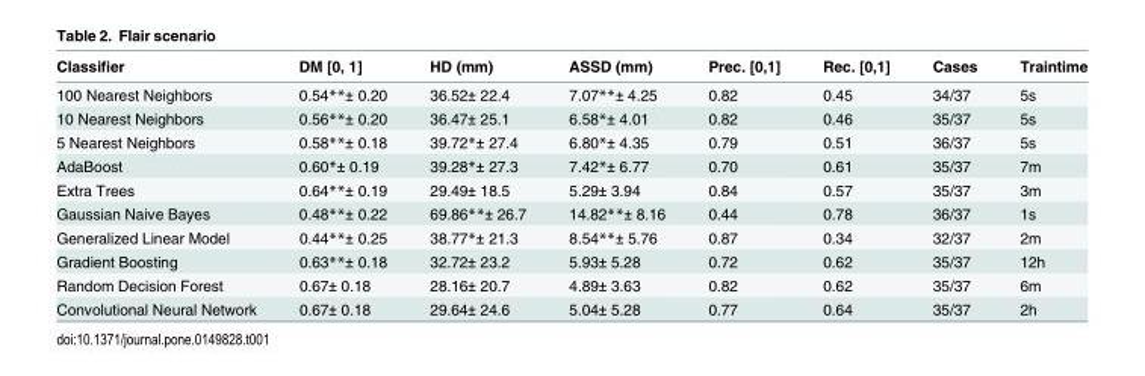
<table><thead><tr><td>Classifier</td><td>DM [0, 1]</td><td>HD (mm)</td><td>ASSD (mm)</td><td>Prec. [0,1]</td><td>Rec. [0,1]</td><td>Cases</td><td>Traintime</td></tr></thead><tbody><tr><td>100 Nearest Neighbors</td><td>0.54**± 0.20</td><td>36.52± 22.4</td><td>7.07**± 4.25</td><td>0.82</td><td>0.45</td><td>34/37</td><td>5s</td></tr><tr><td>10 Nearest Neighbors</td><td>0.56**± 0.20</td><td>36.47± 25.1</td><td>6.58*± 4.01</td><td>0.82</td><td>0.46</td><td>35/37</td><td>5s</td></tr><tr><td>5 Nearest Neighbors</td><td>0.58**± 0.18</td><td>39.72*± 27.4</td><td>6.80*± 4.35</td><td>0.79</td><td>0.51</td><td>36/37</td><td>5s</td></tr><tr><td>AdaBoost</td><td>0.60*± 0.19</td><td>39.28*± 27.3</td><td>7.42*± 6.77</td><td>0.70</td><td>0.61</td><td>35/37</td><td>7m</td></tr><tr><td>Extra Trees</td><td>0.64**± 0.19</td><td>29.49± 18.5</td><td>5.29± 3.94</td><td>0.84</td><td>0.57</td><td>35/37</td><td>3m</td></tr><tr><td>Gaussian Naive Bayes</td><td>0.48**± 0.22</td><td>69.86**± 26.7</td><td>14.82**± 8.16</td><td>0.44</td><td>0.78</td><td>36/37</td><td>1s</td></tr><tr><td>Generalized Linear Model</td><td>0.44**± 0.25</td><td>38.77*± 21.3</td><td>8.54**± 5.76</td><td>0.87</td><td>0.34</td><td>32/37</td><td>2m</td></tr><tr><td>Gradient Boosting</td><td>0.63**± 0.18</td><td>32.72± 23.2</td><td>5.93± 5.28</td><td>0.72</td><td>0.62</td><td>35/37</td><td>12h</td></tr><tr><td>Random Decision Forest</td><td>0.67± 0.18</td><td>28.16± 20.7</td><td>4.89± 3.63</td><td>0.82</td><td>0.62</td><td>35/37</td><td>6m</td></tr><tr><td>Convolutional Neural Network</td><td>0.67± 0.18</td><td>29.64± 24.6</td><td>5.04± 5.28</td><td>0.77</td><td>0.64</td><td>35/37</td><td>2h</td></tr></tbody></table>